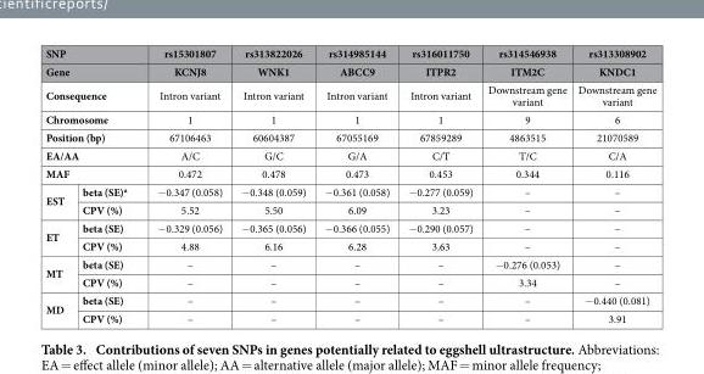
<table><thead><tr><td rowspan="2" colspan="2">SNP Gene</td><td rowspan="2">rs15301807 KCNJ8</td><td rowspan="2">rs313822026 WNK1</td><td rowspan="2">rs314985144 ABCC9</td><td rowspan="2">rs316011750 ITPR2</td><td rowspan="2">rs314546938 ITM2C</td><td rowspan="2">rs313308902 KNDC1</td></tr><tr></tr></thead><tbody><tr><td colspan="2">Consequence</td><td>Intron variant</td><td>Intron variant</td><td>Intron variant</td><td>Intron variant</td><td>Downstream gene variant</td><td>Downstream gene variant</td></tr><tr><td colspan="2">Chromosome</td><td>1</td><td>1</td><td>1</td><td>1</td><td>9</td><td>6</td></tr><tr><td colspan="2">Position (bp)</td><td>67106463</td><td>60604387</td><td>67055169</td><td>67859289</td><td>4863515</td><td>21070589</td></tr><tr><td colspan="2">EA/AA</td><td>A/C</td><td>G/C</td><td>G/A</td><td>C/T</td><td>T/C</td><td>C/A</td></tr><tr><td colspan="2">MAF</td><td>0.472</td><td>0.478</td><td>0.473</td><td>0.453</td><td>0.344</td><td>0.116</td></tr><tr><td rowspan="2">EST</td><td>beta (SE)<sup>a</sup></td><td>− 0.347 (0.058)</td><td>− 0.348 (0.059)</td><td>− 0.361 (0.058)</td><td>− 0.277 (0.059)</td><td>–</td><td>–</td></tr><tr><td>CPV (%)</td><td>5.52</td><td>5.50</td><td>6.09</td><td>3.23</td><td>–</td><td>–</td></tr><tr><td rowspan="2">ET</td><td>beta (SE)</td><td>− 0.329 (0.056)</td><td>− 0.365 (0.056)</td><td>− 0.366 (0.055)</td><td>− 0.290 (0.057)</td><td>–</td><td>–</td></tr><tr><td>CPV (%)</td><td>4.88</td><td>6.16</td><td>6.28</td><td>3.63</td><td>–</td><td>–</td></tr><tr><td rowspan="2">MT</td><td>beta (SE)</td><td>–</td><td>–</td><td>–</td><td>–</td><td>− 0.276 (0.053)</td><td>–</td></tr><tr><td>CPV (%)</td><td>–</td><td>–</td><td>–</td><td>–</td><td>3.34</td><td>–</td></tr><tr><td rowspan="2">MD</td><td>beta (SE)</td><td>–</td><td>–</td><td>–</td><td>–</td><td>–</td><td>− 0.440 (0.081)</td></tr><tr><td>CPV (%)</td><td>–</td><td>–</td><td>–</td><td>–</td><td>–</td><td>3.91</td></tr></tbody></table>